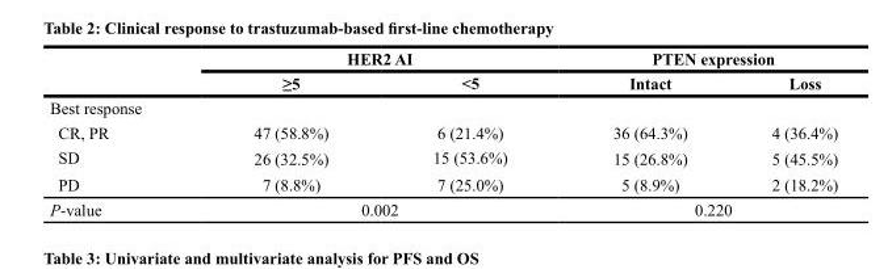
<table><thead><tr><td rowspan="2"></td><td colspan="2">HER2 AI</td><td colspan="2">PTEN expression</td></tr><tr><td>≥5</td><td>&lt;5</td><td>Intact</td><td>Loss</td></tr></thead><tbody><tr><td colspan="5">Best response</td></tr><tr><td>CR, PR</td><td>47 (58.8%)</td><td>6 (21.4%)</td><td>36 (64.3%)</td><td>4 (36.4%)</td></tr><tr><td>SD</td><td>26 (32.5%)</td><td>15 (53.6%)</td><td>15 (26.8%)</td><td>5 (45.5%)</td></tr><tr><td>PD</td><td>7 (8.8%)</td><td>7 (25.0%)</td><td>5 (8.9%)</td><td>2 (18.2%)</td></tr><tr><td>P-value</td><td colspan="2">0.002</td><td colspan="2">0.220</td></tr></tbody></table>